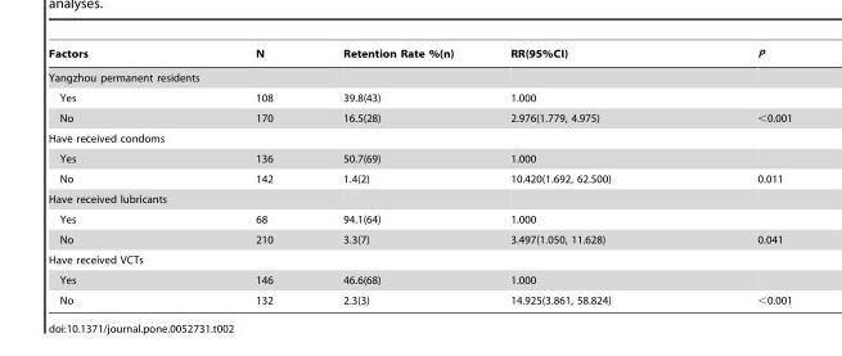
<table><thead><tr><td>Factors</td><td>N</td><td>Retention Rate %(n)</td><td>RR(95%CI)</td><td>P</td></tr></thead><tbody><tr><td colspan="5">Yangzhou permanent residents</td></tr><tr><td>Yes</td><td>108</td><td>39.8(43)</td><td>1.000</td><td></td></tr><tr><td>No</td><td>170</td><td>16.5(28)</td><td>2.976(1.779, 4.975)</td><td>&lt;0.001</td></tr><tr><td colspan="5">Have received condoms</td></tr><tr><td>Yes</td><td>136</td><td>50.7(69)</td><td>1.000</td><td></td></tr><tr><td>No</td><td>142</td><td>1.4(2)</td><td>10.420(1.692, 62.500)</td><td>0.011</td></tr><tr><td colspan="5">Have received lubricants</td></tr><tr><td>Yes</td><td>68</td><td>94.1(64)</td><td>1.000</td><td></td></tr><tr><td>No</td><td>210</td><td>3.3(7)</td><td>3.497(1.050, 11.628)</td><td>0.041</td></tr><tr><td colspan="5">Have received VCTs</td></tr><tr><td>Yes</td><td>146</td><td>46.6(68)</td><td>1.000</td><td></td></tr><tr><td>No</td><td>132</td><td>2.3(3)</td><td>14.925(3.861, 58.824)</td><td>&lt;0.001</td></tr></tbody></table>